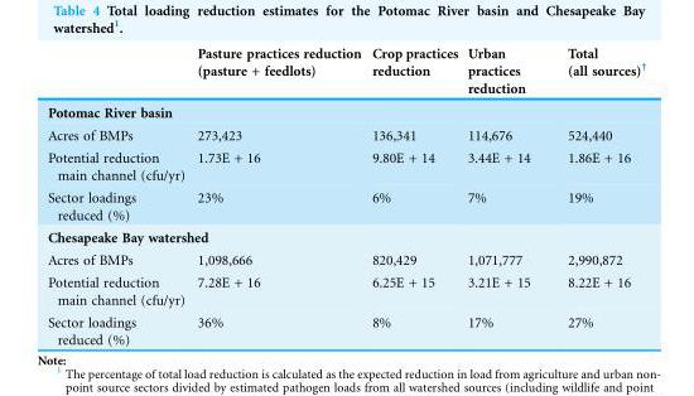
<table><thead><tr><td></td><td>Pasture practices reduction (pasture + feedlots)</td><td>Crop practices reduction</td><td>Urban practices reduction</td><td>Total (all sources)<sup>†</sup></td></tr></thead><tbody><tr><td colspan="5">Potomac River basin</td></tr><tr><td>Acres of BMPs</td><td>273,423</td><td>136,341</td><td>114,676</td><td>524,440</td></tr><tr><td>Potential reduction main channel (cfu/yr)</td><td>1.73E + 16</td><td>9.80E + 14</td><td>3.44E + 14</td><td>1.86E + 16</td></tr><tr><td>Sector loadings reduced (%)</td><td>23%</td><td>6%</td><td>7%</td><td>19%</td></tr><tr><td colspan="5">Chesapeake Bay watershed</td></tr><tr><td>Acres of BMPs</td><td>1,098,666</td><td>820,429</td><td>1,071,777</td><td>2,990,872</td></tr><tr><td>Potential reduction main channel (cfu/yr)</td><td>7.28E + 16</td><td>6.25E + 15</td><td>3.21E + 15</td><td>8.22E + 16</td></tr><tr><td>Sector loadings reduced (%)</td><td>36%</td><td>8%</td><td>17%</td><td>27%</td></tr></tbody></table>